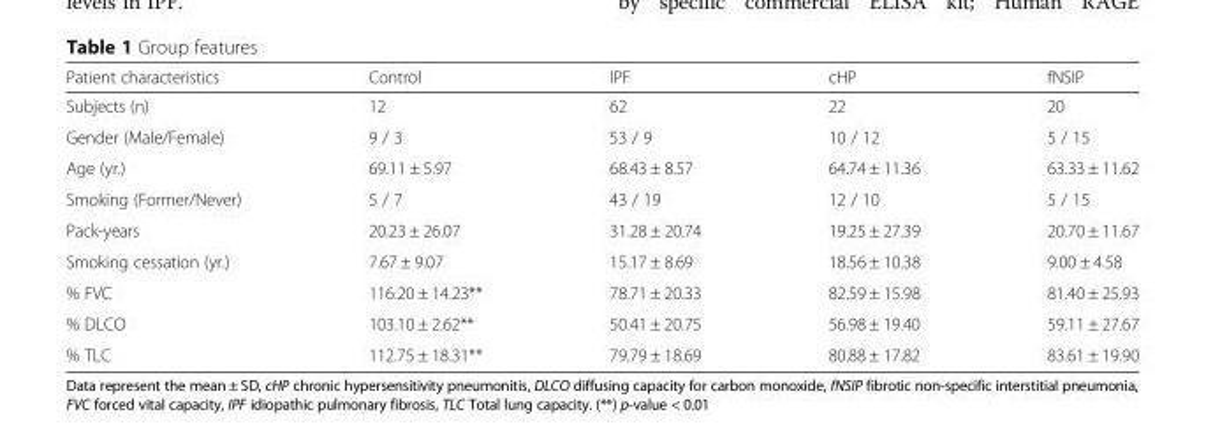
<table><thead><tr><td>Patient characteristics</td><td>Control</td><td>IPF</td><td>cHP</td><td>fNSIP</td></tr></thead><tbody><tr><td>Subjects (n)</td><td>12</td><td>62</td><td>22</td><td>20</td></tr><tr><td>Gender (Male/Female)</td><td>9 / 3</td><td>53 / 9</td><td>10 / 12</td><td>5 / 15</td></tr><tr><td>Age (yr.)</td><td>69.11 ± 5.97</td><td>68.43 ± 8.57</td><td>64.74 ± 11.36</td><td>63.33 ± 11.62</td></tr><tr><td>Smoking (Former/Never)</td><td>5 / 7</td><td>43 / 19</td><td>12 / 10</td><td>5 / 15</td></tr><tr><td>Pack-years</td><td>20.23 ± 26.07</td><td>31.28 ± 20.74</td><td>19.25 ± 27.39</td><td>20.70 ± 11.67</td></tr><tr><td>Smoking cessation (yr.)</td><td>7.67 ± 9.07</td><td>15.17 ± 8.69</td><td>18.56 ± 10.38</td><td>9.00 ± 4.58</td></tr><tr><td>% FVC</td><td>116.20 ± 14.23**</td><td>78.71 ± 20.33</td><td>82.59 ± 15.98</td><td>81.40 ± 25.93</td></tr><tr><td>% DLCO</td><td>103.10 ± 2.62**</td><td>50.41 ± 20.75</td><td>56.98 ± 19.40</td><td>59.11 ± 27.67</td></tr><tr><td>% TLC</td><td>112.75 ± 18.31**</td><td>79.79 ± 18.69</td><td>80.88 ± 17.82</td><td>83.61 ± 19.90</td></tr></tbody></table>